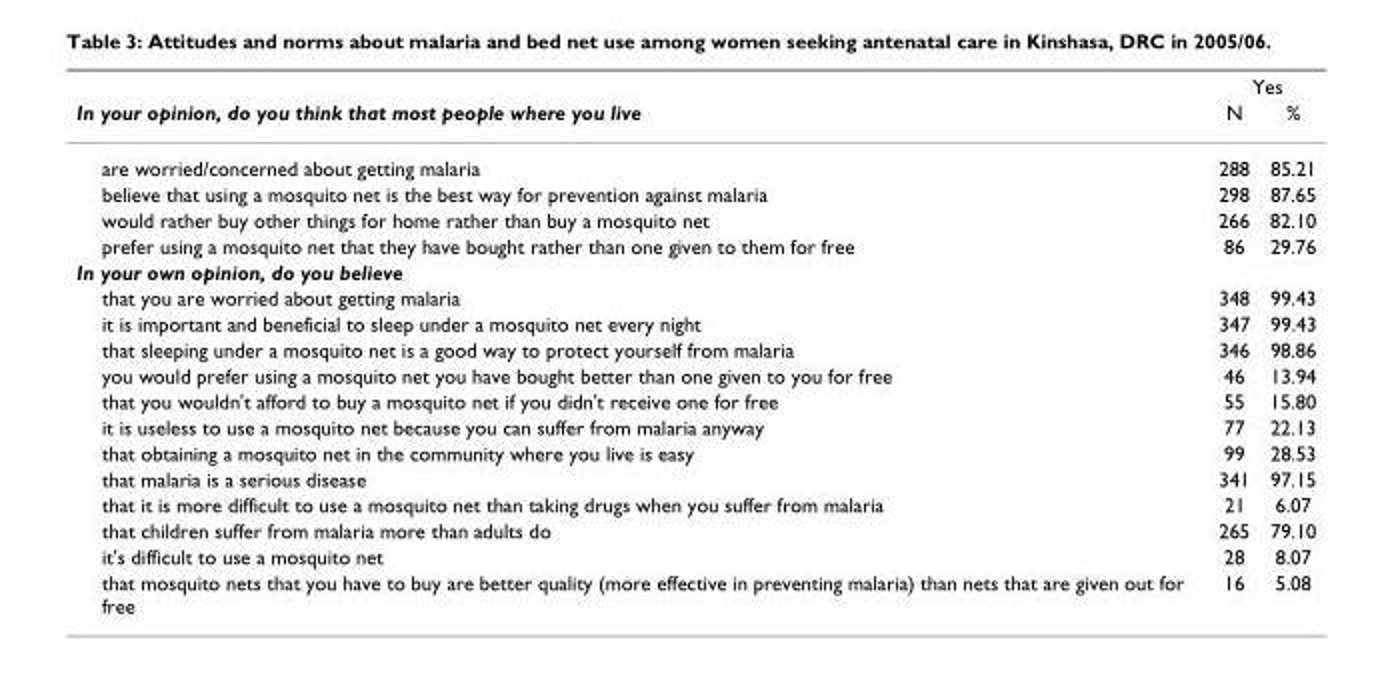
<table><thead><tr><td rowspan="2">In your opinion, do you think that most people where you live</td><td colspan="2">Yes</td></tr><tr><td>N</td><td>%</td></tr></thead><tbody><tr><td>are worried/concerned about getting malaria</td><td>288</td><td>85.21</td></tr><tr><td>believe that using a mosquito net is the best way for prevention against malaria</td><td>298</td><td>87.65</td></tr><tr><td>would rather buy other things for home rather than buy a mosquito net</td><td>266</td><td>82.10</td></tr><tr><td>prefer using a mosquito net that they have bought rather than one given to them for free</td><td>86</td><td>29.76</td></tr><tr><td colspan="3">In your own opinion, do you believe</td></tr><tr><td>that you are worried about getting malaria</td><td>348</td><td>99.43</td></tr><tr><td>it is important and beneficial to sleep under a mosquito net every night</td><td>347</td><td>99.43</td></tr><tr><td>that sleeping under a mosquito net is a good way to protect yourself from malaria</td><td>346</td><td>98.86</td></tr><tr><td>you would prefer using a mosquito net you have bought better than one given to you for free</td><td>46</td><td>13.94</td></tr><tr><td>that you wouldn&#x27;t afford to buy a mosquito net if you didn&#x27;t receive one for free</td><td>55</td><td>15.80</td></tr><tr><td>it is useless to use a mosquito net because you can suffer from malaria anyway</td><td>77</td><td>22.13</td></tr><tr><td>that obtaining a mosquito net in the community where you live is easy</td><td>99</td><td>28.53</td></tr><tr><td>that malaria is a serious disease</td><td>341</td><td>97.15</td></tr><tr><td>that it is more difficult to use a mosquito net than taking drugs when you suffer from malaria</td><td>21</td><td>6.07</td></tr><tr><td>that children suffer from malaria more than adults do</td><td>265</td><td>79.10</td></tr><tr><td>it&#x27;s difficult to use a mosquito net</td><td>28</td><td>8.07</td></tr><tr><td>that mosquito nets that you have to buy are better quality (more effective in preventing malaria) than nets that are given out for free</td><td>16</td><td>5.08</td></tr></tbody></table>